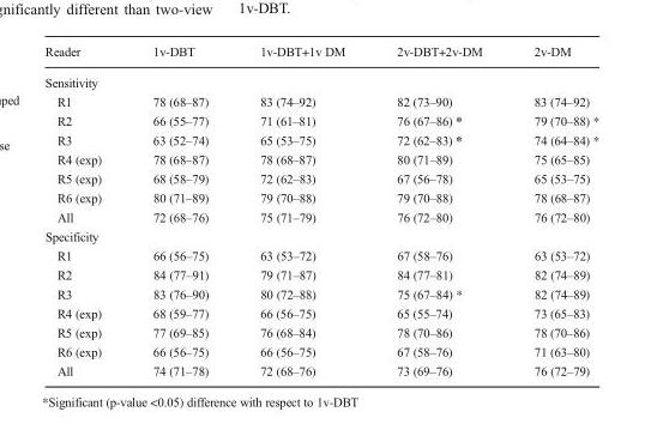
<table><thead><tr><td>Reader</td><td>1v-DBT</td><td>1v-DBT+1v DM</td><td>2v-DBT+2v-DM</td><td>2v-DM</td></tr></thead><tbody><tr><td colspan="5">Sensitivity</td></tr><tr><td>R1</td><td>78 (68–87)</td><td>83 (74–92)</td><td>82 (73–90)</td><td>83 (74–92)</td></tr><tr><td>R2</td><td>66 (55–77)</td><td>71 (61–81)</td><td>76 (67–86) *</td><td>79 (70–88) *</td></tr><tr><td>R3</td><td>63 (52–74)</td><td>65 (53–75)</td><td>72 (62–83) *</td><td>74 (64–84) *</td></tr><tr><td>R4 (exp)</td><td>78 (68–87)</td><td>78 (68–87)</td><td>80 (71–89)</td><td>75 (65–85)</td></tr><tr><td>R5 (exp)</td><td>68 (58–79)</td><td>72 (62–83)</td><td>67 (56–78)</td><td>65 (53–75)</td></tr><tr><td>R6 (exp)</td><td>80 (71–89)</td><td>79 (70–88)</td><td>79 (70–88)</td><td>78 (68–87)</td></tr><tr><td>All</td><td>72 (68–76)</td><td>75 (71–79)</td><td>76 (72–80)</td><td>76 (72–80)</td></tr><tr><td colspan="5">Specificity</td></tr><tr><td>R1</td><td>66 (56–75)</td><td>63 (53–72)</td><td>67 (58–76)</td><td>63 (53–72)</td></tr><tr><td>R2</td><td>84 (77–91)</td><td>79 (71–87)</td><td>84 (77–81)</td><td>82 (74–89)</td></tr><tr><td>R3</td><td>83 (76–90)</td><td>80 (72–88)</td><td>75 (67–84) *</td><td>82 (74–89)</td></tr><tr><td>R4 (exp)</td><td>68 (59–77)</td><td>66 (56–75)</td><td>65 (55–74)</td><td>73 (65–83)</td></tr><tr><td>R5 (exp)</td><td>77 (69–85)</td><td>76 (68–84)</td><td>78 (70–86)</td><td>78 (70–86)</td></tr><tr><td>R6 (exp)</td><td>66 (56–75)</td><td>66 (56–75)</td><td>67 (58–76)</td><td>71 (63–80)</td></tr><tr><td>All</td><td>74 (71–78)</td><td>72 (68–76)</td><td>73 (69–76)</td><td>76 (72–79)</td></tr></tbody></table>